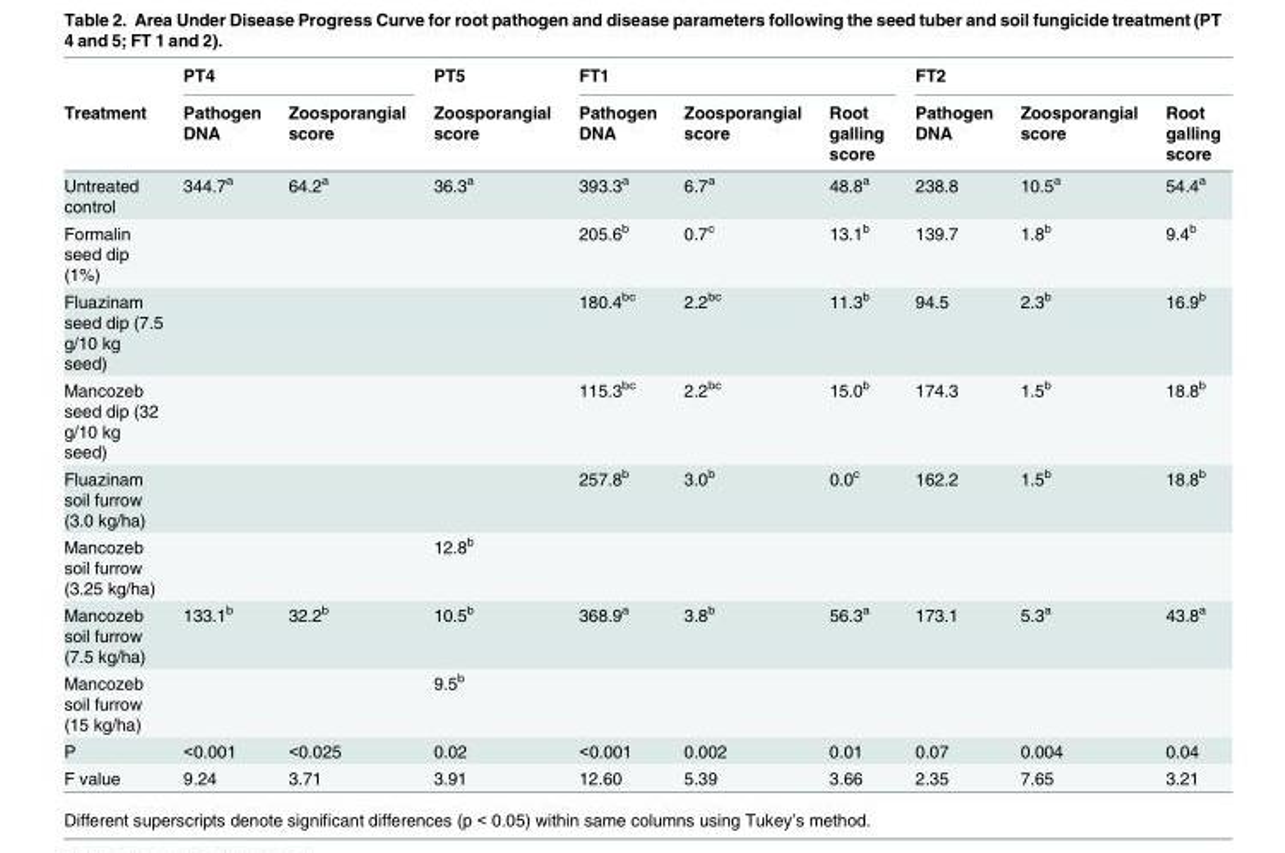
<table><thead><tr><td rowspan="2">Treatment</td><td colspan="2">PT4</td><td rowspan="2">PT5 Zoosporangial score</td><td colspan="3">FT1</td><td colspan="3">FT2</td></tr><tr><td>Pathogen DNA</td><td>Zoosporangial score</td><td>Pathogen DNA</td><td>Zoosporangial score</td><td>Root galling score</td><td>Pathogen DNA</td><td>Zoosporangial score</td><td>Root galling score</td></tr></thead><tbody><tr><td>Untreated control</td><td>344.7<sup>a</sup></td><td>64.2<sup>a</sup></td><td>36.3<sup>a</sup></td><td>393.3<sup>a</sup></td><td>6.7<sup>a</sup></td><td>48.8<sup>a</sup></td><td>238.8</td><td>10.5<sup>a</sup></td><td>54.4<sup>a</sup></td></tr><tr><td>Formalin seed dip (1%)</td><td></td><td></td><td></td><td>205.6<sup>b</sup></td><td>0.7<sup>c</sup></td><td>13.1<sup>b</sup></td><td>139.7</td><td>1.8<sup>b</sup></td><td>9.4<sup>b</sup></td></tr><tr><td>Fluazinam seed dip (7.5 g/10 kg seed)</td><td></td><td></td><td></td><td>180.4<sup>bc</sup></td><td>2.2<sup>bc</sup></td><td>11.3<sup>b</sup></td><td>94.5</td><td>2.3<sup>b</sup></td><td>16.9<sup>b</sup></td></tr><tr><td>Mancozeb seed dip (32 g/10 kg seed)</td><td></td><td></td><td></td><td>115.3<sup>bc</sup></td><td>2.2<sup>bc</sup></td><td>15.0<sup>b</sup></td><td>174.3</td><td>1.5<sup>b</sup></td><td>18.8<sup>b</sup></td></tr><tr><td>Fluazinam soil furrow (3.0 kg/ha)</td><td></td><td></td><td></td><td>257.8<sup>b</sup></td><td>3.0<sup>b</sup></td><td>0.0<sup>c</sup></td><td>162.2</td><td>1.5<sup>b</sup></td><td>18.8<sup>b</sup></td></tr><tr><td>Mancozeb soil furrow (3.25 kg/ha)</td><td></td><td></td><td>12.8<sup>b</sup></td><td></td><td></td><td></td><td></td><td></td><td></td></tr><tr><td>Mancozeb soil furrow (7.5 kg/ha)</td><td>133.1<sup>b</sup></td><td>32.2<sup>b</sup></td><td>10.5<sup>b</sup></td><td>368.9<sup>a</sup></td><td>3.8<sup>b</sup></td><td>56.3<sup>a</sup></td><td>173.1</td><td>5.3<sup>a</sup></td><td>43.8<sup>a</sup></td></tr><tr><td>Mancozeb soil furrow (15 kg/ha)</td><td></td><td></td><td>9.5<sup>b</sup></td><td></td><td></td><td></td><td></td><td></td><td></td></tr><tr><td>P</td><td>&lt;0.001</td><td>&lt;0.025</td><td>0.02</td><td>&lt;0.001</td><td>0.002</td><td>0.01</td><td>0.07</td><td>0.004</td><td>0.04</td></tr><tr><td>F value</td><td>9.24</td><td>3.71</td><td>3.91</td><td>12.60</td><td>5.39</td><td>3.66</td><td>2.35</td><td>7.65</td><td>3.21</td></tr></tbody></table>